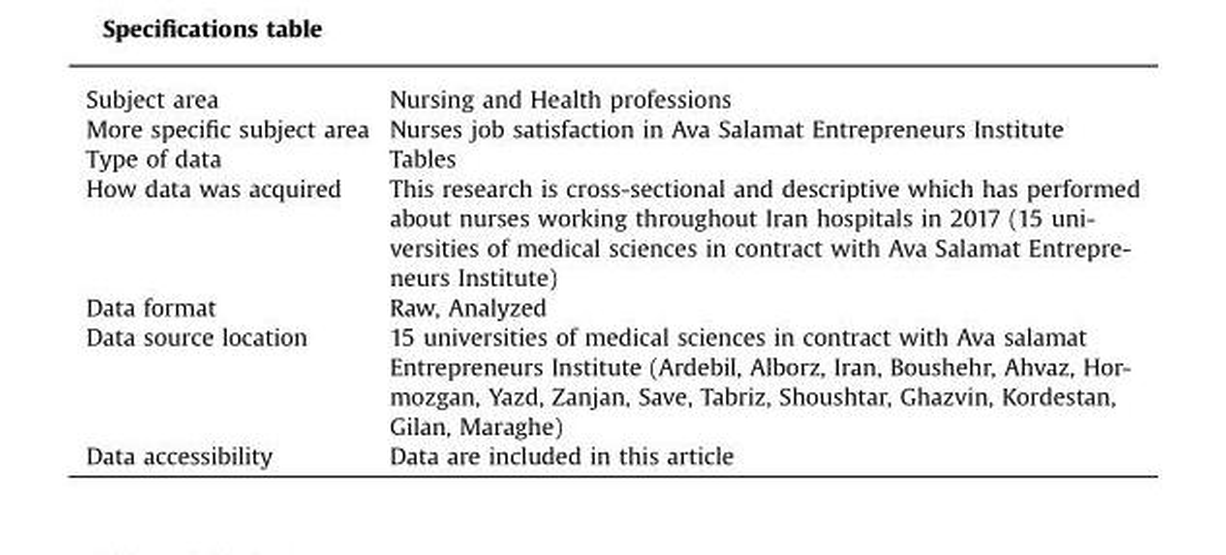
<table><tbody><tr><td>Subject area</td><td>Nursing and Health professions</td></tr><tr><td>More specific subject area</td><td>Nurses job satisfaction in Ava Salamat Entrepreneurs Institute</td></tr><tr><td>Type of data</td><td>Tables</td></tr><tr><td>How data was acquired</td><td>This research is cross-sectional and descriptive which has performed about nurses working throughout Iran hospitals in 2017 (15 uni- versities of medical sciences in contract with Ava Salamat Entrepre- neurs Institute)</td></tr><tr><td>Data format</td><td>Raw, Analyzed</td></tr><tr><td>Data source location</td><td>15 universities of medical sciences in contract with Ava salamat Entrepreneurs Institute (Ardebil, Alborz, Iran, Boushehr, Ahvaz, Hor- mozgan, Yazd, Zanjan, Save, Tabriz, Shoushtar, Ghazvin, Kordestan, Gilan, Maraghe)</td></tr><tr><td>Data accessibility</td><td>Data are included in this article</td></tr></tbody></table>